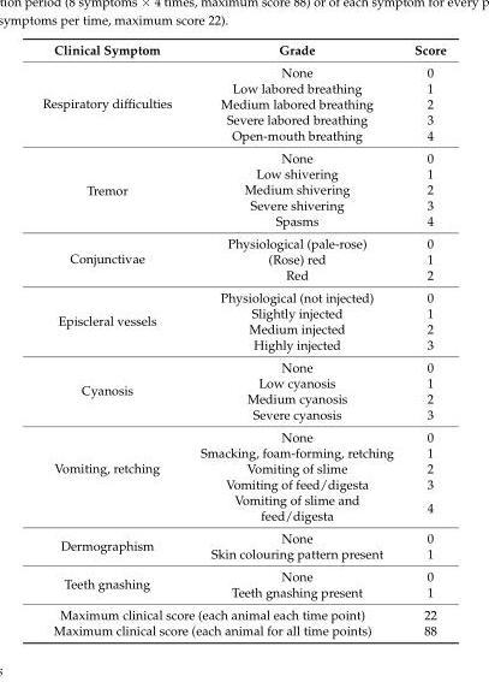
<table><thead><tr><td>Clinical Symptom</td><td>Grade</td><td>Score</td></tr></thead><tbody><tr><td rowspan="5">Respiratory difficulties</td><td>None</td><td>0</td></tr><tr><td>Low labored breathing</td><td>1</td></tr><tr><td>Medium labored breathing</td><td>2</td></tr><tr><td>Severe labored breathing</td><td>3</td></tr><tr><td>Open-mouth breathing</td><td>4</td></tr><tr><td rowspan="5">Tremor</td><td>None</td><td>0</td></tr><tr><td>Low shivering</td><td>1</td></tr><tr><td>Medium shivering</td><td>2</td></tr><tr><td>Severe shivering</td><td>3</td></tr><tr><td>Spasms</td><td>4</td></tr><tr><td rowspan="3">Conjunctivae</td><td>Physiological (pale-rose)</td><td>0</td></tr><tr><td>(Rose) red</td><td>1</td></tr><tr><td>Red</td><td>2</td></tr><tr><td rowspan="4">Episcleral vessels</td><td>Physiological (not injected)</td><td>0</td></tr><tr><td>Slightly injected</td><td>1</td></tr><tr><td>Medium injected</td><td>2</td></tr><tr><td>Highly injected</td><td>3</td></tr><tr><td rowspan="4">Cyanosis</td><td>None</td><td>0</td></tr><tr><td>Low cyanosis</td><td>1</td></tr><tr><td>Medium cyanosis</td><td>2</td></tr><tr><td>Severe cyanosis</td><td>3</td></tr><tr><td rowspan="5">Vomiting, retching</td><td>None</td><td>0</td></tr><tr><td>Smacking, foam-forming, retching</td><td>1</td></tr><tr><td>Vomiting of slime</td><td>2</td></tr><tr><td>Vomiting of feed/digesta</td><td>3</td></tr><tr><td>Vomiting of slime and feed/digesta</td><td>4</td></tr><tr><td rowspan="2">Dermographism</td><td>None</td><td>0</td></tr><tr><td>Skin colouring pattern present</td><td>1</td></tr><tr><td rowspan="2">Teeth gnashing</td><td>None</td><td>0</td></tr><tr><td>Teeth gnashing present</td><td>1</td></tr><tr><td colspan="2">Maximum clinical score (each animal each time point)</td><td>22</td></tr><tr><td colspan="2">Maximum clinical score (each animal for all time points)</td><td>88</td></tr></tbody></table>